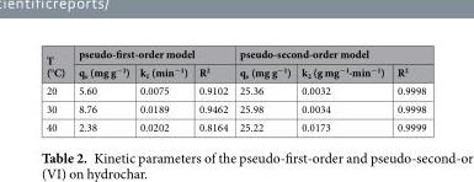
<table><thead><tr><td rowspan="2">T (°C)</td><td colspan="3">pseudo-first-order model</td><td colspan="3">pseudo-second-order model</td></tr><tr><td>q<sub>e</sub> (mg g<sup>−1</sup>)</td><td>k<sub>1</sub> (min<sup>−1</sup>)</td><td>R<sup>2</sup></td><td>q<sub>e</sub> (mg g<sup>−1</sup>)</td><td>k<sub>2</sub> (g mg<sup>−1</sup>·min<sup>−1</sup>)</td><td>R<sup>2</sup></td></tr></thead><tbody><tr><td>20</td><td>5.60</td><td>0.0075</td><td>0.9102</td><td>25.36</td><td>0.0032</td><td>0.9998</td></tr><tr><td>30</td><td>8.76</td><td>0.0189</td><td>0.9462</td><td>25.98</td><td>0.0034</td><td>0.9998</td></tr><tr><td>40</td><td>2.38</td><td>0.0202</td><td>0.8164</td><td>25.22</td><td>0.0173</td><td>0.9999</td></tr></tbody></table>